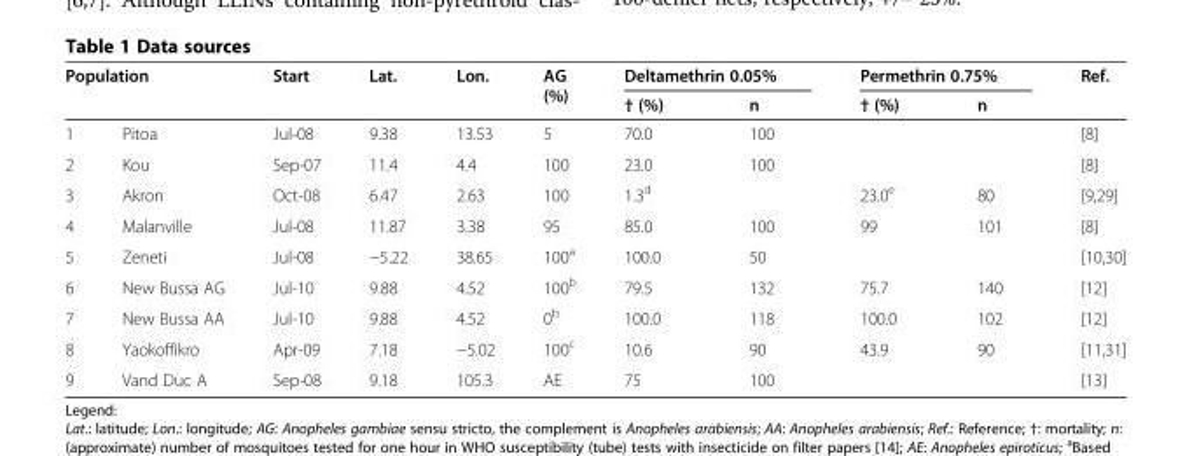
<table><thead><tr><td rowspan="2" colspan="2">Population</td><td rowspan="3">Start Jul-08</td><td rowspan="3">Lat. 9.38</td><td rowspan="3">Lon. 13.53</td><td rowspan="3">AG (%) 5</td><td colspan="2">Deltamethrin 0.05%</td><td colspan="2">Permethrin 0.75%</td><td rowspan="3">Ref. [8]</td></tr><tr><td rowspan="2">† (%) 70.0</td><td rowspan="2">n 100</td><td rowspan="2">† (%)</td><td rowspan="2">n</td></tr><tr><td>1</td><td>Pitoa</td></tr></thead><tbody><tr><td>2</td><td>Kou</td><td>Sep-07</td><td>11.4</td><td>4.4</td><td>100</td><td>23.0</td><td>100</td><td></td><td></td><td>[8]</td></tr><tr><td>3</td><td>Akron</td><td>Oct-08</td><td>6.47</td><td>2.63</td><td>100</td><td>1.3<sup>d</sup></td><td></td><td>23.0<sup>e</sup></td><td>80</td><td>[9,29]</td></tr><tr><td>4</td><td>Malanville</td><td>Jul-08</td><td>11.87</td><td>3.38</td><td>95</td><td>85.0</td><td>100</td><td>99</td><td>101</td><td>[8]</td></tr><tr><td>5</td><td>Zeneti</td><td>Jul-08</td><td>−5.22</td><td>38.65</td><td>100<sup>a</sup></td><td>100.0</td><td>50</td><td></td><td></td><td>[10,30]</td></tr><tr><td>6</td><td>New Bussa AG</td><td>Jul-10</td><td>9.88</td><td>4.52</td><td>100<sup>b</sup></td><td>79.5</td><td>132</td><td>75.7</td><td>140</td><td>[12]</td></tr><tr><td>7</td><td>New Bussa AA</td><td>Jul-10</td><td>9.88</td><td>4.52</td><td>0<sup>b</sup></td><td>100.0</td><td>118</td><td>100.0</td><td>102</td><td>[12]</td></tr><tr><td>8</td><td>Yaokoffikro</td><td>Apr-09</td><td>7.18</td><td>−5.02</td><td>100<sup>c</sup></td><td>10.6</td><td>90</td><td>43.9</td><td>90</td><td>[11,31]</td></tr><tr><td>9</td><td>Vand Duc A</td><td>Sep-08</td><td>9.18</td><td>105.3</td><td>AE</td><td>75</td><td>100</td><td></td><td></td><td>[13]</td></tr></tbody></table>